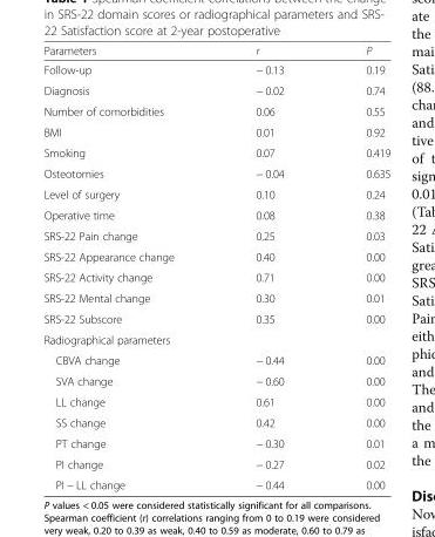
<table><thead><tr><td>Parameters</td><td>r</td><td>P</td></tr></thead><tbody><tr><td>Follow-up</td><td>− 0.13</td><td>0.19</td></tr><tr><td>Diagnosis</td><td>− 0.02</td><td>0.74</td></tr><tr><td>Number of comorbidities</td><td>0.06</td><td>0.55</td></tr><tr><td>BMI</td><td>0.01</td><td>0.92</td></tr><tr><td>Smoking</td><td>0.07</td><td>0.419</td></tr><tr><td>Osteotomies</td><td>− 0.04</td><td>0.635</td></tr><tr><td>Level of surgery</td><td>0.10</td><td>0.24</td></tr><tr><td>Operative time</td><td>0.08</td><td>0.38</td></tr><tr><td>SRS-22 Pain change</td><td>0.25</td><td>0.03</td></tr><tr><td>SRS-22 Appearance change</td><td>0.40</td><td>0.00</td></tr><tr><td>SRS-22 Activity change</td><td>0.71</td><td>0.00</td></tr><tr><td>SRS-22 Mental change</td><td>0.30</td><td>0.01</td></tr><tr><td>SRS-22 Subscore</td><td>0.35</td><td>0.00</td></tr><tr><td colspan="3">Radiographical parameters</td></tr><tr><td>CBVA change</td><td>− 0.44</td><td>0.00</td></tr><tr><td>SVA change</td><td>− 0.60</td><td>0.00</td></tr><tr><td>LL change</td><td>0.61</td><td>0.00</td></tr><tr><td>SS change</td><td>0.42</td><td>0.00</td></tr><tr><td>PT change</td><td>− 0.30</td><td>0.01</td></tr><tr><td>PI change</td><td>− 0.27</td><td>0.02</td></tr><tr><td>PI − LL change</td><td>− 0.44</td><td>0.00</td></tr></tbody></table>